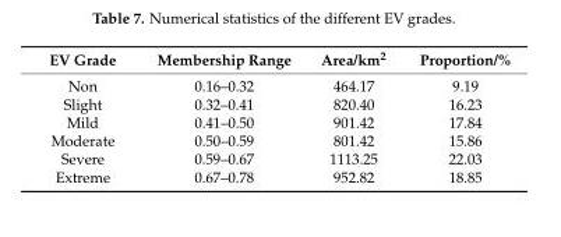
<table><thead><tr><td>EV Grade</td><td>Membership Range</td><td>Area/km<sup>2</sup></td><td>Proportion/%</td></tr></thead><tbody><tr><td>Non</td><td>0.16–0.32</td><td>464.17</td><td>9.19</td></tr><tr><td>Slight</td><td>0.32–0.41</td><td>820.40</td><td>16.23</td></tr><tr><td>Mild</td><td>0.41–0.50</td><td>901.42</td><td>17.84</td></tr><tr><td>Moderate</td><td>0.50–0.59</td><td>801.42</td><td>15.86</td></tr><tr><td>Severe</td><td>0.59–0.67</td><td>1113.25</td><td>22.03</td></tr><tr><td>Extreme</td><td>0.67–0.78</td><td>952.82</td><td>18.85</td></tr></tbody></table>